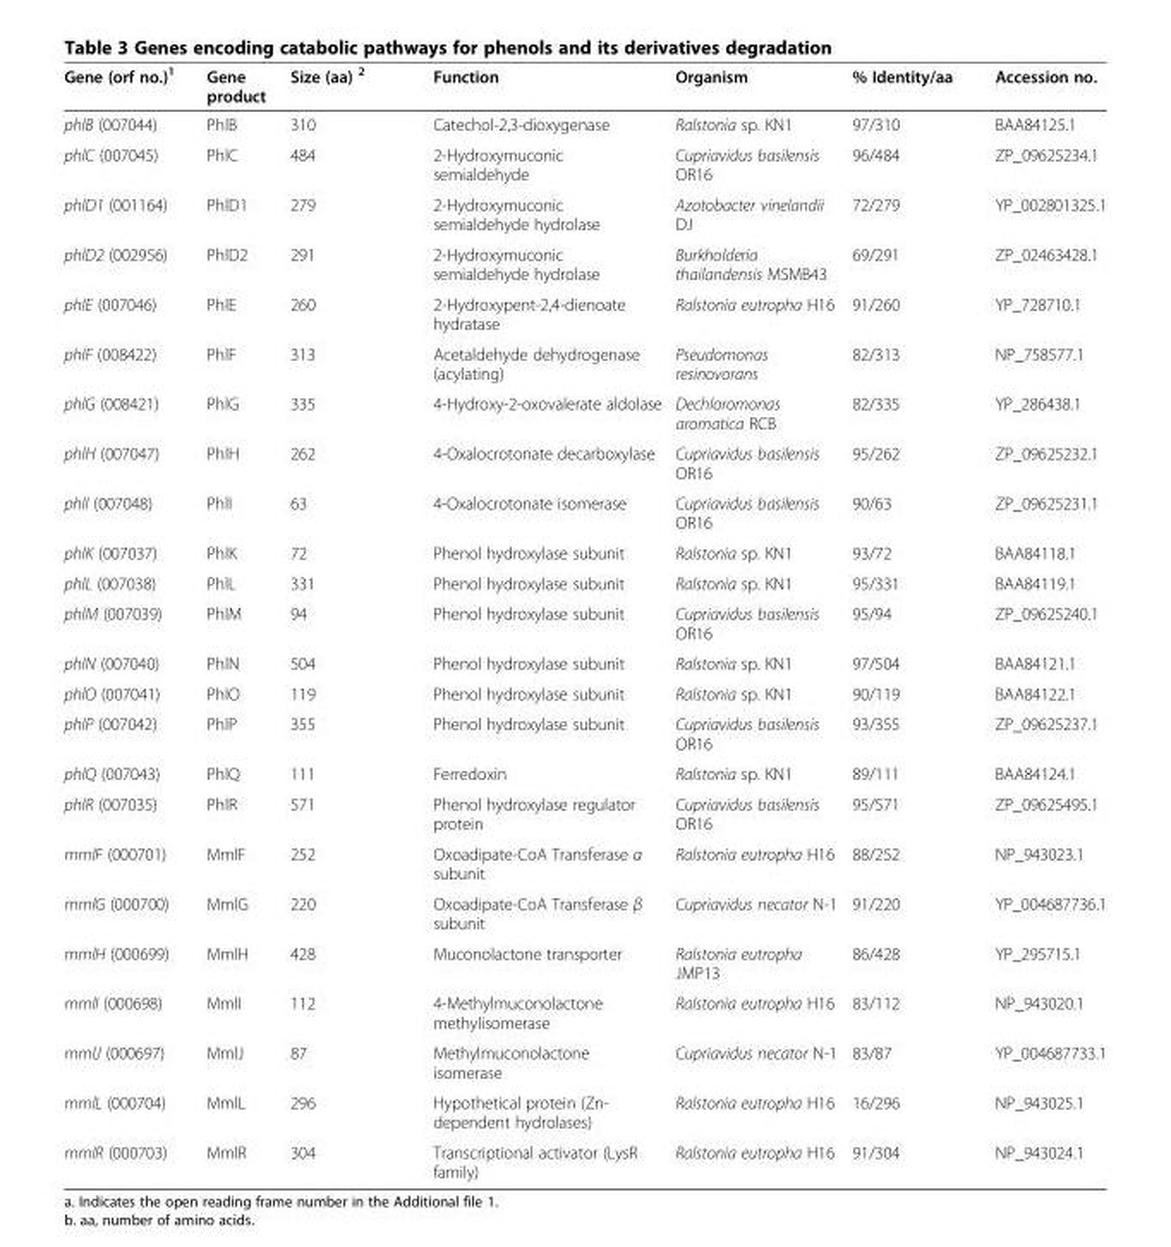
<table><thead><tr><td>Gene (orf no.)<sup>1</sup></td><td>Gene product</td><td>Size (aa) <sup>2</sup></td><td>Function</td><td>Organism</td><td>% Identity/aa</td><td>Accession no.</td></tr></thead><tbody><tr><td>phlB (007044)</td><td>PhlB</td><td>310</td><td>Catechol-2,3-dioxygenase</td><td>Ralstonia sp. KN1</td><td>97/310</td><td>BAA84125.1</td></tr><tr><td>phlC (007045)</td><td>PhlC</td><td>484</td><td>2-Hydroxymuconic semialdehyde</td><td>Cupriavidus basilensis OR16</td><td>96/484</td><td>ZP_09625234.1</td></tr><tr><td>phlD1 (001164)</td><td>PhlD1</td><td>279</td><td>2-Hydroxymuconic semialdehyde hydrolase</td><td>Azotobacter vinelandii DJ</td><td>72/279</td><td>YP_002801325.1</td></tr><tr><td>phlD2 (002956)</td><td>PhlD2</td><td>291</td><td>2-Hydroxymuconic semialdehyde hydrolase</td><td>Burkholderia thailandensis MSMB43</td><td>69/291</td><td>ZP_02463428.1</td></tr><tr><td>phlE (007046)</td><td>PhlE</td><td>260</td><td>2-Hydroxypent-2,4-dienoate hydratase</td><td>Ralstonia eutropha H16</td><td>91/260</td><td>YP_728710.1</td></tr><tr><td>phlF (008422)</td><td>PhlF</td><td>313</td><td>Acetaldehyde dehydrogenase (acylating)</td><td>Pseudomonas resinovorans</td><td>82/313</td><td>NP_758577.1</td></tr><tr><td>phlG (008421)</td><td>PhlG</td><td>335</td><td>4-Hydroxy-2-oxovalerate aldolase</td><td>Dechloromonas aromatica RCB</td><td>82/335</td><td>YP_286438.1</td></tr><tr><td>phlH (007047)</td><td>PhlH</td><td>262</td><td>4-Oxalocrotonate decarboxylase</td><td>Cupriavidus basilensis OR16</td><td>95/262</td><td>ZP_09625232.1</td></tr><tr><td>phlI (007048)</td><td>PhlI</td><td>63</td><td>4-Oxalocrotonate isomerase</td><td>Cupriavidus basilensis OR16</td><td>90/63</td><td>ZP_09625231.1</td></tr><tr><td>phlK (007037)</td><td>PhlK</td><td>72</td><td>Phenol hydroxylase subunit</td><td>Ralstonia sp. KN1</td><td>93/72</td><td>BAA84118.1</td></tr><tr><td>phlL (007038)</td><td>PhlL</td><td>331</td><td>Phenol hydroxylase subunit</td><td>Ralstonia sp. KN1</td><td>95/331</td><td>BAA84119.1</td></tr><tr><td>phlM (007039)</td><td>PhlM</td><td>94</td><td>Phenol hydroxylase subunit</td><td>Cupriavidus basilensis OR16</td><td>95/94</td><td>ZP_09625240.1</td></tr><tr><td>phlN (007040)</td><td>PhlN</td><td>504</td><td>Phenol hydroxylase subunit</td><td>Ralstonia sp. KN1</td><td>97/504</td><td>BAA84121.1</td></tr><tr><td>phlO (007041)</td><td>PhlO</td><td>119</td><td>Phenol hydroxylase subunit</td><td>Ralstonia sp. KN1</td><td>90/119</td><td>BAA84122.1</td></tr><tr><td>phlP (007042)</td><td>PhlP</td><td>355</td><td>Phenol hydroxylase subunit</td><td>Cupriavidus basilensis OR16</td><td>93/355</td><td>ZP_09625237.1</td></tr><tr><td>phlQ (007043)</td><td>PhlQ</td><td>111</td><td>Ferredoxin</td><td>Ralstonia sp. KN1</td><td>89/111</td><td>BAA84124.1</td></tr><tr><td>phlR (007035)</td><td>PhlR</td><td>571</td><td>Phenol hydroxylase regulator protein</td><td>Cupriavidus basilensis OR16</td><td>95/571</td><td>ZP_09625495.1</td></tr><tr><td>mmlF (000701)</td><td>MmlF</td><td>252</td><td>Oxoadipate-CoA Transferase α subunit</td><td>Ralstonia eutropha H16</td><td>88/252</td><td>NP_943023.1</td></tr><tr><td>mmlG (000700)</td><td>MmlG</td><td>220</td><td>Oxoadipate-CoA Transferase β subunit</td><td>Cupriavidus necator N-1</td><td>91/220</td><td>YP_004687736.1</td></tr><tr><td>mmlH (000699)</td><td>MmlH</td><td>428</td><td>Muconolactone transporter</td><td>Ralstonia eutropha JMP13</td><td>86/428</td><td>YP_295715.1</td></tr><tr><td>mmlI (000698)</td><td>MmlI</td><td>112</td><td>4-Methylmuconolactone methylisomerase</td><td>Ralstonia eutropha H16</td><td>83/112</td><td>NP_943020.1</td></tr><tr><td>mmlJ (000697)</td><td>MmlJ</td><td>87</td><td>Methylmuconolactone isomerase</td><td>Cupriavidus necator N-1</td><td>83/87</td><td>YP_004687733.1</td></tr><tr><td>mmlL (000704)</td><td>MmlL</td><td>296</td><td>Hypothetical protein (Zn- dependent hydrolases)</td><td>Ralstonia eutropha H16</td><td>16/296</td><td>NP_943025.1</td></tr><tr><td>mmlR (000703)</td><td>MmlR</td><td>304</td><td>Transcriptional activator (LysR family)</td><td>Ralstonia eutropha H16</td><td>91/304</td><td>NP_943024.1</td></tr></tbody></table>